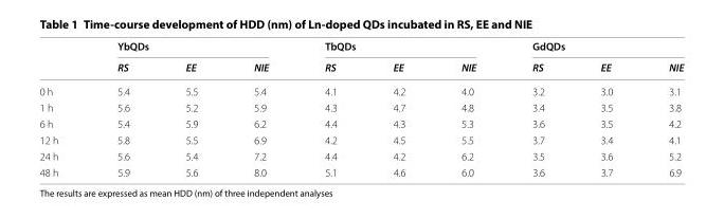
<table><thead><tr><td rowspan="2"></td><td colspan="3">YbQDs</td><td colspan="3">TbQDs</td><td colspan="3">GdQDs</td></tr><tr><td>RS</td><td>EE</td><td>NIE</td><td>RS</td><td>EE</td><td>NIE</td><td>RS</td><td>EE</td><td>NIE</td></tr></thead><tbody><tr><td>0 h</td><td>5.4</td><td>5.5</td><td>5.4</td><td>4.1</td><td>4.2</td><td>4.0</td><td>3.2</td><td>3.0</td><td>3.1</td></tr><tr><td>1 h</td><td>5.6</td><td>5.2</td><td>5.9</td><td>4.3</td><td>4.7</td><td>4.8</td><td>3.4</td><td>3.5</td><td>3.8</td></tr><tr><td>6 h</td><td>5.4</td><td>5.9</td><td>6.2</td><td>4.4</td><td>4.3</td><td>5.3</td><td>3.6</td><td>3.5</td><td>4.2</td></tr><tr><td>12 h</td><td>5.8</td><td>5.5</td><td>6.9</td><td>4.2</td><td>4.5</td><td>5.5</td><td>3.7</td><td>3.4</td><td>4.1</td></tr><tr><td>24 h</td><td>5.6</td><td>5.4</td><td>7.2</td><td>4.4</td><td>4.2</td><td>6.2</td><td>3.5</td><td>3.6</td><td>5.2</td></tr><tr><td>48 h</td><td>5.9</td><td>5.6</td><td>8.0</td><td>5.1</td><td>4.6</td><td>6.0</td><td>3.6</td><td>3.7</td><td>6.9</td></tr></tbody></table>